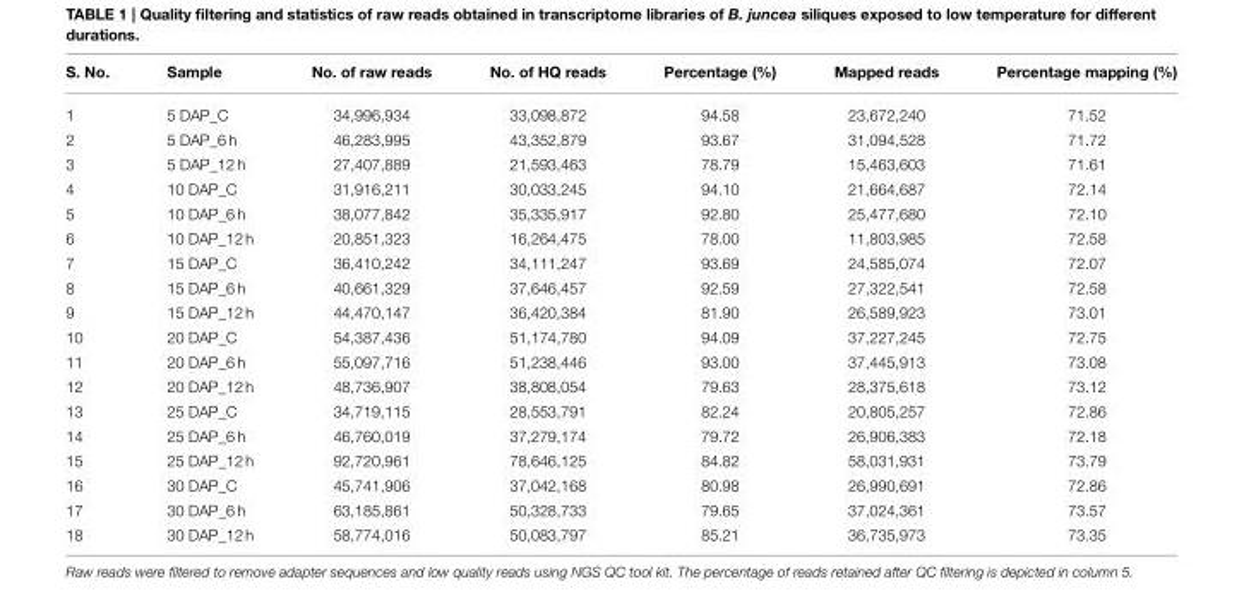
<table><thead><tr><td>S. No.</td><td>Sample</td><td>No. of raw reads</td><td>No. of HQ reads</td><td>Percentage (%)</td><td>Mapped reads</td><td>Percentage mapping (%)</td></tr></thead><tbody><tr><td>1</td><td>5 DAP_C</td><td>34,996,934</td><td>33,098,872</td><td>94.58</td><td>23,672,240</td><td>71.52</td></tr><tr><td>2</td><td>5 DAP_6 h</td><td>46,283,995</td><td>43,352,879</td><td>93.67</td><td>31,094,528</td><td>71.72</td></tr><tr><td>3</td><td>5 DAP_12 h</td><td>27,407,889</td><td>21,593,463</td><td>78.79</td><td>15,463,603</td><td>71.61</td></tr><tr><td>4</td><td>10 DAP_C</td><td>31,916,211</td><td>30,033,245</td><td>94.10</td><td>21,664,687</td><td>72.14</td></tr><tr><td>5</td><td>10 DAP_6 h</td><td>38,077,842</td><td>35,335,917</td><td>92.80</td><td>25,477,680</td><td>72.10</td></tr><tr><td>6</td><td>10 DAP_12 h</td><td>20,851,323</td><td>16,264,475</td><td>78.00</td><td>11,803,985</td><td>72.58</td></tr><tr><td>7</td><td>15 DAP_C</td><td>36,410,242</td><td>34,111,247</td><td>93.69</td><td>24,585,074</td><td>72.07</td></tr><tr><td>8</td><td>15 DAP_6 h</td><td>40,661,329</td><td>37,646,457</td><td>92.59</td><td>27,322,541</td><td>72.58</td></tr><tr><td>9</td><td>15 DAP_12 h</td><td>44,470,147</td><td>36,420,384</td><td>81.90</td><td>26,589,923</td><td>73.01</td></tr><tr><td>10</td><td>20 DAP_C</td><td>54,387,436</td><td>51,174,780</td><td>94.09</td><td>37,227,245</td><td>72.75</td></tr><tr><td>11</td><td>20 DAP_6 h</td><td>55,097,716</td><td>51,238,446</td><td>93.00</td><td>37,445,913</td><td>73.08</td></tr><tr><td>12</td><td>20 DAP_12 h</td><td>48,736,907</td><td>38,808,054</td><td>79.63</td><td>28,375,618</td><td>73.12</td></tr><tr><td>13</td><td>25 DAP_C</td><td>34,719,115</td><td>28,553,791</td><td>82.24</td><td>20,805,257</td><td>72.86</td></tr><tr><td>14</td><td>25 DAP_6 h</td><td>46,760,019</td><td>37,279,174</td><td>79.72</td><td>26,906,383</td><td>72.18</td></tr><tr><td>15</td><td>25 DAP_12 h</td><td>92,720,961</td><td>78,646,125</td><td>84.82</td><td>58,031,931</td><td>73.79</td></tr><tr><td>16</td><td>30 DAP_C</td><td>45,741,906</td><td>37,042,168</td><td>80.98</td><td>26,990,691</td><td>72.86</td></tr><tr><td>17</td><td>30 DAP_6 h</td><td>63,185,861</td><td>50,328,733</td><td>79.65</td><td>37,024,361</td><td>73.57</td></tr><tr><td>18</td><td>30 DAP_12 h</td><td>58,774,016</td><td>50,083,797</td><td>85.21</td><td>36,735,973</td><td>73.35</td></tr></tbody></table>